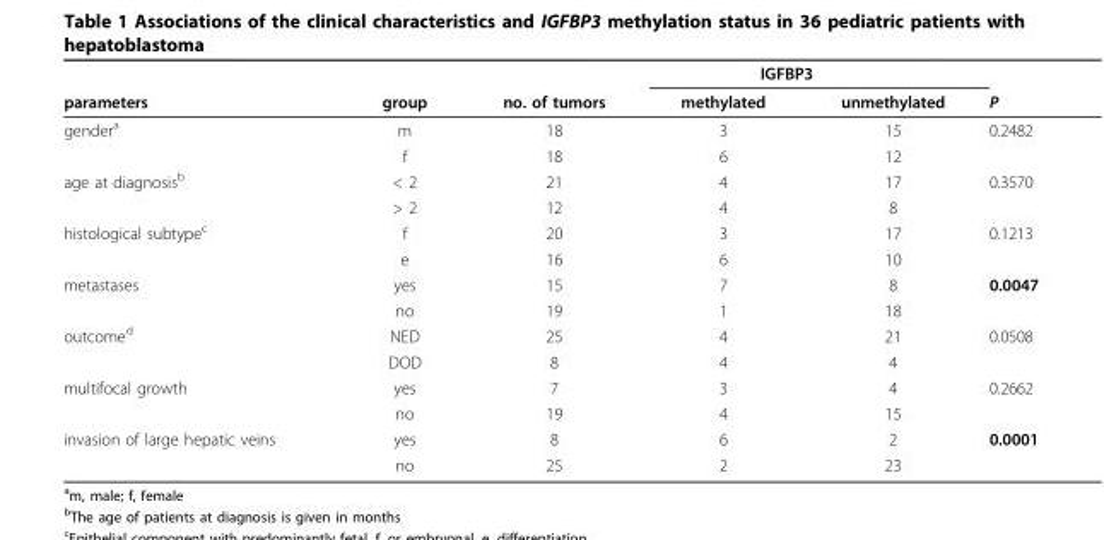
<table><thead><tr><td rowspan="2">parameters</td><td rowspan="2">group</td><td colspan="4">IGFBP3</td></tr><tr><td>no. of tumors</td><td>methylated</td><td>unmethylated</td><td>P</td></tr></thead><tbody><tr><td rowspan="2">gender<sup>a</sup></td><td>m</td><td>18</td><td>3</td><td>15</td><td>0.2482</td></tr><tr><td>f</td><td>18</td><td>6</td><td>12</td><td></td></tr><tr><td rowspan="2">age at diagnosis<sup>b</sup></td><td>&lt; 2</td><td>21</td><td>4</td><td>17</td><td>0.3570</td></tr><tr><td>&gt; 2</td><td>12</td><td>4</td><td>8</td><td></td></tr><tr><td rowspan="2">histological subtype<sup>c</sup></td><td>f</td><td>20</td><td>3</td><td>17</td><td>0.1213</td></tr><tr><td>e</td><td>16</td><td>6</td><td>10</td><td></td></tr><tr><td rowspan="2">metastases</td><td>yes</td><td>15</td><td>7</td><td>8</td><td>0.0047</td></tr><tr><td>no</td><td>19</td><td>1</td><td>18</td><td></td></tr><tr><td rowspan="2">outcome<sup>d</sup></td><td>NED</td><td>25</td><td>4</td><td>21</td><td>0.0508</td></tr><tr><td>DOD</td><td>8</td><td>4</td><td>4</td><td></td></tr><tr><td rowspan="2">multifocal growth</td><td>yes</td><td>7</td><td>3</td><td>4</td><td>0.2662</td></tr><tr><td>no</td><td>19</td><td>4</td><td>15</td><td></td></tr><tr><td rowspan="2">invasion of large hepatic veins</td><td>yes</td><td>8</td><td>6</td><td>2</td><td>0.0001</td></tr><tr><td>no</td><td>25</td><td>2</td><td>23</td><td></td></tr></tbody></table>